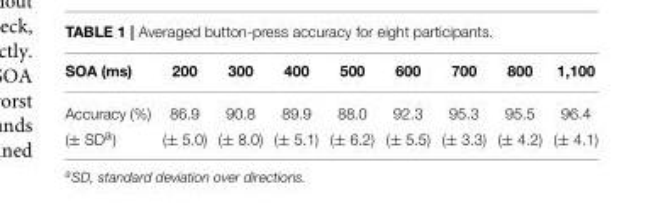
<table><thead><tr><td>SOA (ms)</td><td>200</td><td>300</td><td>400</td><td>500</td><td>600</td><td>700</td><td>800</td><td>1,100</td></tr></thead><tbody><tr><td>Accuracy (%)</td><td>86.9</td><td>90.8</td><td>89.9</td><td>88.0</td><td>92.3</td><td>95.3</td><td>95.5</td><td>96.4</td></tr><tr><td>(± SD<sup>a</sup>)</td><td>(± 5.0)</td><td>(± 8.0)</td><td>(± 5.1)</td><td>(± 6.2)</td><td>(± 5.5)</td><td>(± 3.3)</td><td>(± 4.2)</td><td>(± 4.1)</td></tr></tbody></table>